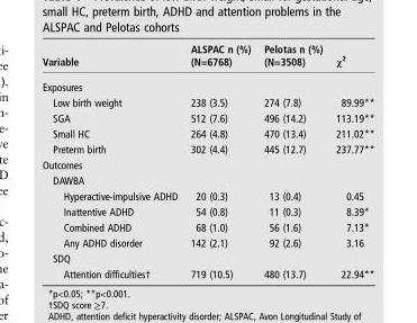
<table><thead><tr><td>Variable</td><td>ALSPAC n (%) (N=6768)</td><td>Pelotas n (%) (N=3508)</td><td>χ<sup>2</sup></td></tr></thead><tbody><tr><td colspan="4">Exposures</td></tr><tr><td>Low birth weight</td><td>238 (3.5)</td><td>274 (7.8)</td><td>89.99**</td></tr><tr><td>SGA</td><td>512 (7.6)</td><td>496 (14.2)</td><td>113.19**</td></tr><tr><td>Small HC</td><td>264 (4.8)</td><td>470 (13.4)</td><td>211.02**</td></tr><tr><td>Preterm birth</td><td>302 (4.4)</td><td>445 (12.7)</td><td>237.77**</td></tr><tr><td colspan="4">Outcomes</td></tr><tr><td colspan="4">DAWBA</td></tr><tr><td>Hyperactive-impulsive ADHD</td><td>20 (0.3)</td><td>13 (0.4)</td><td>0.45</td></tr><tr><td>Inattentive ADHD</td><td>54 (0.8)</td><td>11 (0.3)</td><td>8.39*</td></tr><tr><td>Combined ADHD</td><td>68 (1.0)</td><td>56 (1.6)</td><td>7.13*</td></tr><tr><td>Any ADHD disorder</td><td>142 (2.1)</td><td>92 (2.6)</td><td>3.16</td></tr><tr><td colspan="4">SDQ</td></tr><tr><td>Attention difficulties†</td><td>719 (10.5)</td><td>480 (13.7)</td><td>22.94**</td></tr></tbody></table>